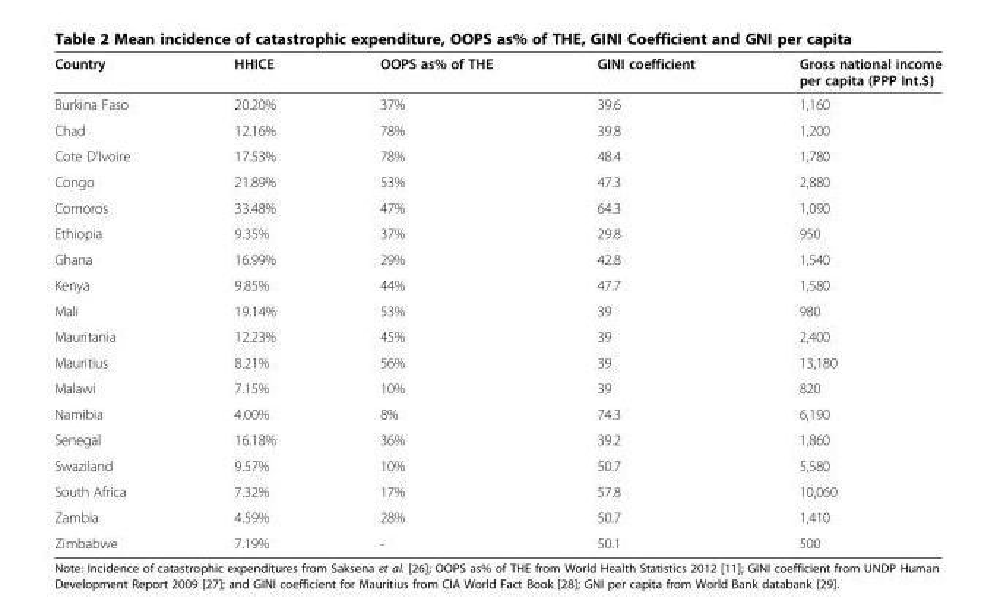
<table><thead><tr><td>Country</td><td>HHICE</td><td>OOPS as% of THE</td><td>GINI coefficient</td><td>Gross national income per capita (PPP Int.$)</td></tr></thead><tbody><tr><td>Burkina Faso</td><td>20.20%</td><td>37%</td><td>39.6</td><td>1,160</td></tr><tr><td>Chad</td><td>12.16%</td><td>78%</td><td>39.8</td><td>1,200</td></tr><tr><td>Cote D’Ivoire</td><td>17.53%</td><td>78%</td><td>48.4</td><td>1,780</td></tr><tr><td>Congo</td><td>21.89%</td><td>53%</td><td>47.3</td><td>2,880</td></tr><tr><td>Comoros</td><td>33.48%</td><td>47%</td><td>64.3</td><td>1,090</td></tr><tr><td>Ethiopia</td><td>9.35%</td><td>37%</td><td>29.8</td><td>950</td></tr><tr><td>Ghana</td><td>16.99%</td><td>29%</td><td>42.8</td><td>1,540</td></tr><tr><td>Kenya</td><td>9.85%</td><td>44%</td><td>47.7</td><td>1,580</td></tr><tr><td>Mali</td><td>19.14%</td><td>53%</td><td>39</td><td>980</td></tr><tr><td>Mauritania</td><td>12.23%</td><td>45%</td><td>39</td><td>2,400</td></tr><tr><td>Mauritius</td><td>8.21%</td><td>56%</td><td>39</td><td>13,180</td></tr><tr><td>Malawi</td><td>7.15%</td><td>10%</td><td>39</td><td>820</td></tr><tr><td>Namibia</td><td>4.00%</td><td>8%</td><td>74.3</td><td>6,190</td></tr><tr><td>Senegal</td><td>16.18%</td><td>36%</td><td>39.2</td><td>1,860</td></tr><tr><td>Swaziland</td><td>9.57%</td><td>10%</td><td>50.7</td><td>5,580</td></tr><tr><td>South Africa</td><td>7.32%</td><td>17%</td><td>57.8</td><td>10,060</td></tr><tr><td>Zambia</td><td>4.59%</td><td>28%</td><td>50.7</td><td>1,410</td></tr><tr><td>Zimbabwe</td><td>7.19%</td><td>-</td><td>50.1</td><td>500</td></tr></tbody></table>